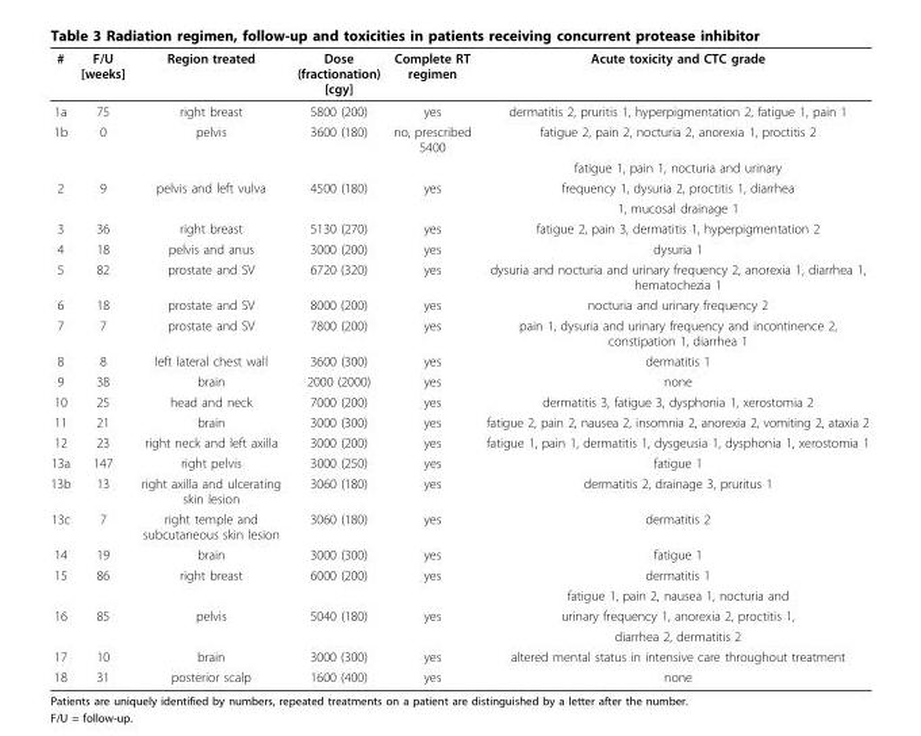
<table><thead><tr><td>#</td><td>F/U [weeks]</td><td>Region treated</td><td>Dose (fractionation) [cgy]</td><td>Complete RT regimen</td><td>Acute toxicity and CTC grade</td></tr></thead><tbody><tr><td>1a</td><td>75</td><td>right breast</td><td>5800 (200)</td><td>yes</td><td>dermatitis 2, pruritis 1, hyperpigmentation 2, fatigue 1, pain 1</td></tr><tr><td rowspan="2">1b</td><td>0</td><td>pelvis</td><td>3600 (180)</td><td>no, prescribed 5400</td><td>fatigue 2, pain 2, nocturia 2, anorexia 1, proctitis 2</td></tr><tr><td></td><td></td><td></td><td></td><td>fatigue 1, pain 1, nocturia and urinary</td></tr><tr><td rowspan="2">2</td><td>9</td><td>pelvis and left vulva</td><td>4500 (180)</td><td>yes</td><td>frequency 1, dysuria 2, proctitis 1, diarrhea</td></tr><tr><td></td><td></td><td></td><td></td><td>1, mucosal drainage 1</td></tr><tr><td>3</td><td>36</td><td>right breast</td><td>5130 (270)</td><td>yes</td><td>fatigue 2, pain 3, dermatitis 1, hyperpigmentation 2</td></tr><tr><td>4</td><td>18</td><td>pelvis and anus</td><td>3000 (200)</td><td>yes</td><td>dysuria 1</td></tr><tr><td>5</td><td>82</td><td>prostate and SV</td><td>6720 (320)</td><td>yes</td><td>dysuria and nocturia and urinary frequency 2, anorexia 1, diarrhea 1, hematochezia 1</td></tr><tr><td>6</td><td>18</td><td>prostate and SV</td><td>8000 (200)</td><td>yes</td><td>nocturia and urinary frequency 2</td></tr><tr><td>7</td><td>7</td><td>prostate and SV</td><td>7800 (200)</td><td>yes</td><td>pain 1, dysuria and urinary frequency and incontinence 2, constipation 1, diarrhea 1</td></tr><tr><td>8</td><td>8</td><td>left lateral chest wall</td><td>3600 (300)</td><td>yes</td><td>dermatitis 1</td></tr><tr><td>9</td><td>38</td><td>brain</td><td>2000 (2000)</td><td>yes</td><td>none</td></tr><tr><td>10</td><td>25</td><td>head and neck</td><td>7000 (200)</td><td>yes</td><td>dermatitis 3, fatigue 3, dysphonia 1, xerostomia 2</td></tr><tr><td>11</td><td>21</td><td>brain</td><td>3000 (300)</td><td>yes</td><td>fatigue 2, pain 2, nausea 2, insomnia 2, anorexia 2, vomiting 2, ataxia 2</td></tr><tr><td>12</td><td>23</td><td>right neck and left axilla</td><td>3000 (200)</td><td>yes</td><td>fatigue 1, pain 1, dermatitis 1, dysgeusia 1, dysphonia 1, xerostomia 1</td></tr><tr><td>13a</td><td>147</td><td>right pelvis</td><td>3000 (250)</td><td>yes</td><td>fatigue 1</td></tr><tr><td>13b</td><td>13</td><td>right axilla and ulcerating skin lesion</td><td>3060 (180)</td><td>yes</td><td>dermatitis 2, drainage 3, pruritus 1</td></tr><tr><td>13c</td><td>7</td><td>right temple and subcutaneous skin lesion</td><td>3060 (180)</td><td>yes</td><td>dermatitis 2</td></tr><tr><td>14</td><td>19</td><td>brain</td><td>3000 (300)</td><td>yes</td><td>fatigue 1</td></tr><tr><td rowspan="2">15</td><td>86</td><td>right breast</td><td>6000 (200)</td><td>yes</td><td>dermatitis 1</td></tr><tr><td></td><td></td><td></td><td></td><td>fatigue 1, pain 2, nausea 1, nocturia and</td></tr><tr><td rowspan="2">16</td><td>85</td><td>pelvis</td><td>5040 (180)</td><td>yes</td><td>urinary frequency 1, anorexia 2, proctitis 1,</td></tr><tr><td></td><td></td><td></td><td></td><td>diarrhea 2, dermatitis 2</td></tr><tr><td>17</td><td>10</td><td>brain</td><td>3000 (300)</td><td>yes</td><td>altered mental status in intensive care throughout treatment</td></tr><tr><td>18</td><td>31</td><td>posterior scalp</td><td>1600 (400)</td><td>yes</td><td>none</td></tr></tbody></table>